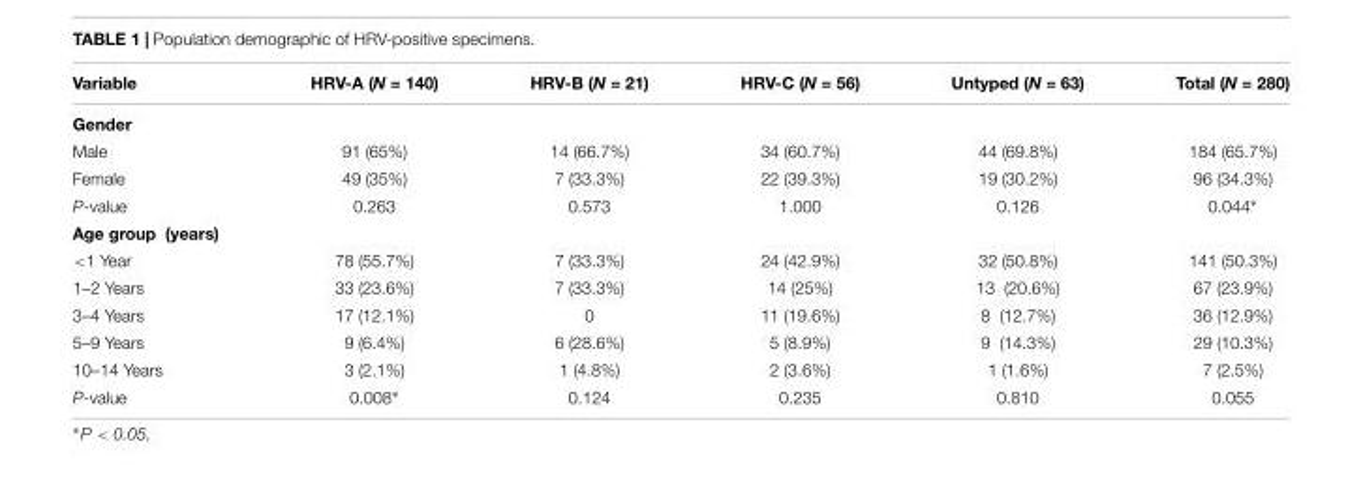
<table><thead><tr><td>Variable</td><td>HRV-A (N = 140)</td><td>HRV-B (N = 21)</td><td>HRV-C (N = 56)</td><td>Untyped (N = 63)</td><td>Total (N = 280)</td></tr></thead><tbody><tr><td colspan="6">Gender</td></tr><tr><td>Male</td><td>91 (65%)</td><td>14 (66.7%)</td><td>34 (60.7%)</td><td>44 (69.8%)</td><td>184 (65.7%)</td></tr><tr><td>Female</td><td>49 (35%)</td><td>7 (33.3%)</td><td>22 (39.3%)</td><td>19 (30.2%)</td><td>96 (34.3%)</td></tr><tr><td>P-value</td><td>0.263</td><td>0.573</td><td>1.000</td><td>0.126</td><td>0.044∗</td></tr><tr><td colspan="6">Age group (years)</td></tr><tr><td>&lt;1 Year</td><td>78 (55.7%)</td><td>7 (33.3%)</td><td>24 (42.9%)</td><td>32 (50.8%)</td><td>141 (50.3%)</td></tr><tr><td>1–2 Years</td><td>33 (23.6%)</td><td>7 (33.3%)</td><td>14 (25%)</td><td>13 (20.6%)</td><td>67 (23.9%)</td></tr><tr><td>3–4 Years</td><td>17 (12.1%)</td><td>0</td><td>11 (19.6%)</td><td>8 (12.7%)</td><td>36 (12.9%)</td></tr><tr><td>5–9 Years</td><td>9 (6.4%)</td><td>6 (28.6%)</td><td>5 (8.9%)</td><td>9 (14.3%)</td><td>29 (10.3%)</td></tr><tr><td>10–14 Years</td><td>3 (2.1%)</td><td>1 (4.8%)</td><td>2 (3.6%)</td><td>1 (1.6%)</td><td>7 (2.5%)</td></tr><tr><td>P-value</td><td>0.008∗</td><td>0.124</td><td>0.235</td><td>0.810</td><td>0.055</td></tr></tbody></table>